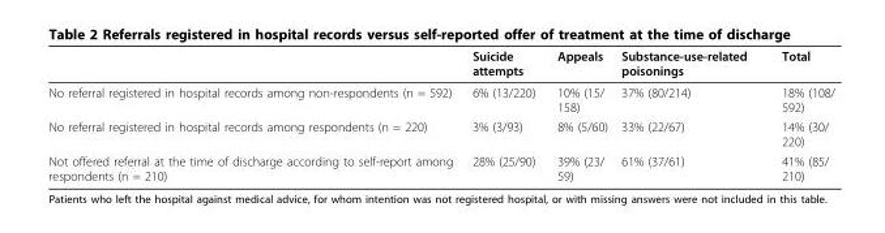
<table><thead><tr><td></td><td>Suicide attempts</td><td>Appeals</td><td>Substance-use-related poisonings</td><td>Total</td></tr></thead><tbody><tr><td>No referral registered in hospital records among non-respondents (n = 592)</td><td>6% (13/220)</td><td>10% (15/ 158)</td><td>37% (80/214)</td><td>18% (108/ 592)</td></tr><tr><td>No referral registered in hospital records among respondents (n = 220)</td><td>3% (3/93)</td><td>8% (5/60)</td><td>33% (22/67)</td><td>14% (30/ 220)</td></tr><tr><td>Not offered referral at the time of discharge according to self-report among respondents (n = 210)</td><td>28% (25/90)</td><td>39% (23/ 59)</td><td>61% (37/61)</td><td>41% (85/ 210)</td></tr></tbody></table>